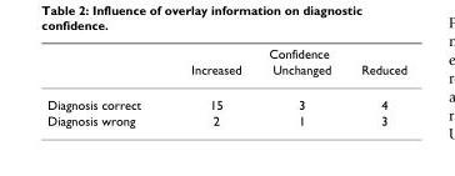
<table><thead><tr><td rowspan="2"></td><td colspan="3">Confidence</td></tr><tr><td>Increased</td><td>Unchanged</td><td>Reduced</td></tr></thead><tbody><tr><td>Diagnosis correct</td><td>15</td><td>3</td><td>4</td></tr><tr><td>Diagnosis wrong</td><td>2</td><td>1</td><td>3</td></tr></tbody></table>